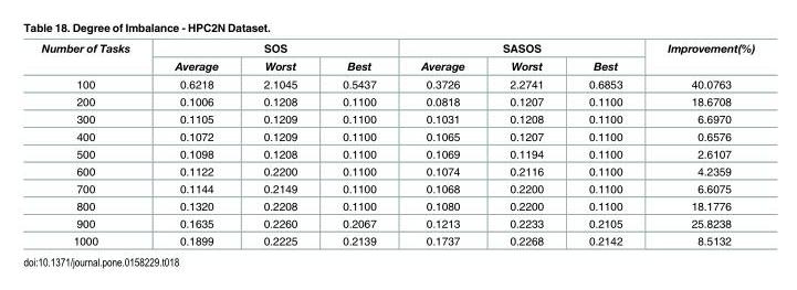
<table><thead><tr><td rowspan="2">Number of Tasks</td><td colspan="3">SOS</td><td colspan="3">SASOS</td><td rowspan="2">Improvement(%)</td></tr><tr><td>Average</td><td>Worst</td><td>Best</td><td>Average</td><td>Worst</td><td>Best</td></tr></thead><tbody><tr><td>100</td><td>0.6218</td><td>2.1045</td><td>0.5437</td><td>0.3726</td><td>2.2741</td><td>0.6853</td><td>40.0763</td></tr><tr><td>200</td><td>0.1006</td><td>0.1208</td><td>0.1100</td><td>0.0818</td><td>0.1207</td><td>0.1100</td><td>18.6708</td></tr><tr><td>300</td><td>0.1105</td><td>0.1209</td><td>0.1100</td><td>0.1031</td><td>0.1208</td><td>0.1100</td><td>6.6970</td></tr><tr><td>400</td><td>0.1072</td><td>0.1209</td><td>0.1100</td><td>0.1065</td><td>0.1207</td><td>0.1100</td><td>0.6576</td></tr><tr><td>500</td><td>0.1098</td><td>0.1208</td><td>0.1100</td><td>0.1069</td><td>0.1194</td><td>0.1100</td><td>2.6107</td></tr><tr><td>600</td><td>0.1122</td><td>0.2200</td><td>0.1100</td><td>0.1074</td><td>0.2116</td><td>0.1100</td><td>4.2359</td></tr><tr><td>700</td><td>0.1144</td><td>0.2149</td><td>0.1100</td><td>0.1068</td><td>0.2200</td><td>0.1100</td><td>6.6075</td></tr><tr><td>800</td><td>0.1320</td><td>0.2208</td><td>0.1100</td><td>0.1080</td><td>0.2200</td><td>0.1100</td><td>18.1776</td></tr><tr><td>900</td><td>0.1635</td><td>0.2260</td><td>0.2067</td><td>0.1213</td><td>0.2233</td><td>0.2105</td><td>25.8238</td></tr><tr><td>1000</td><td>0.1899</td><td>0.2225</td><td>0.2139</td><td>0.1737</td><td>0.2268</td><td>0.2142</td><td>8.5132</td></tr></tbody></table>